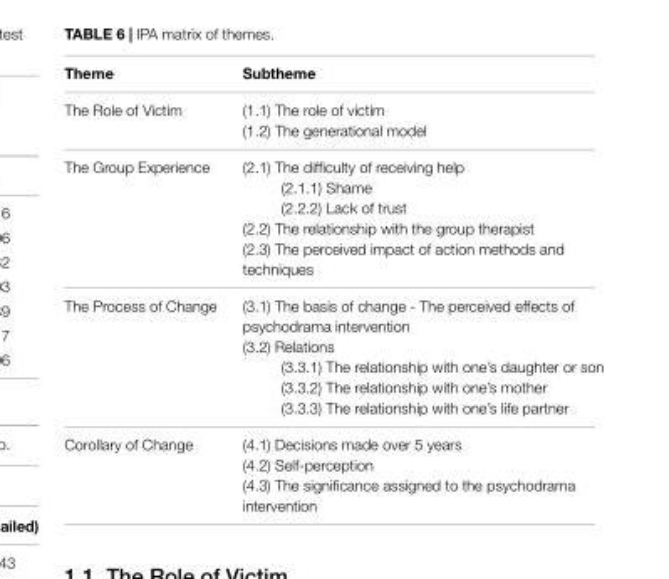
<table><thead><tr><td>Theme</td><td>Subtheme</td></tr></thead><tbody><tr><td>The Role of Victim</td><td>(1.1) The role of victim (1.2) The generational model</td></tr><tr><td>The Group Experience</td><td>(2.1) The difficulty of receiving help (2.1.1) Shame (2.2.2) Lack of trust (2.2) The relationship with the group therapist (2.3) The perceived impact of action methods and techniques</td></tr><tr><td>The Process of Change</td><td>(3.1) The basis of change - The perceived effects of psychodrama intervention (3.2) Relations (3.3.1) The relationship with one’s daughter or son (3.3.2) The relationship with one’s mother (3.3.3) The relationship with one’s life partner</td></tr><tr><td>Corollary of Change</td><td>(4.1) Decisions made over 5 years (4.2) Self-perception (4.3) The significance assigned to the psychodrama intervention</td></tr></tbody></table>